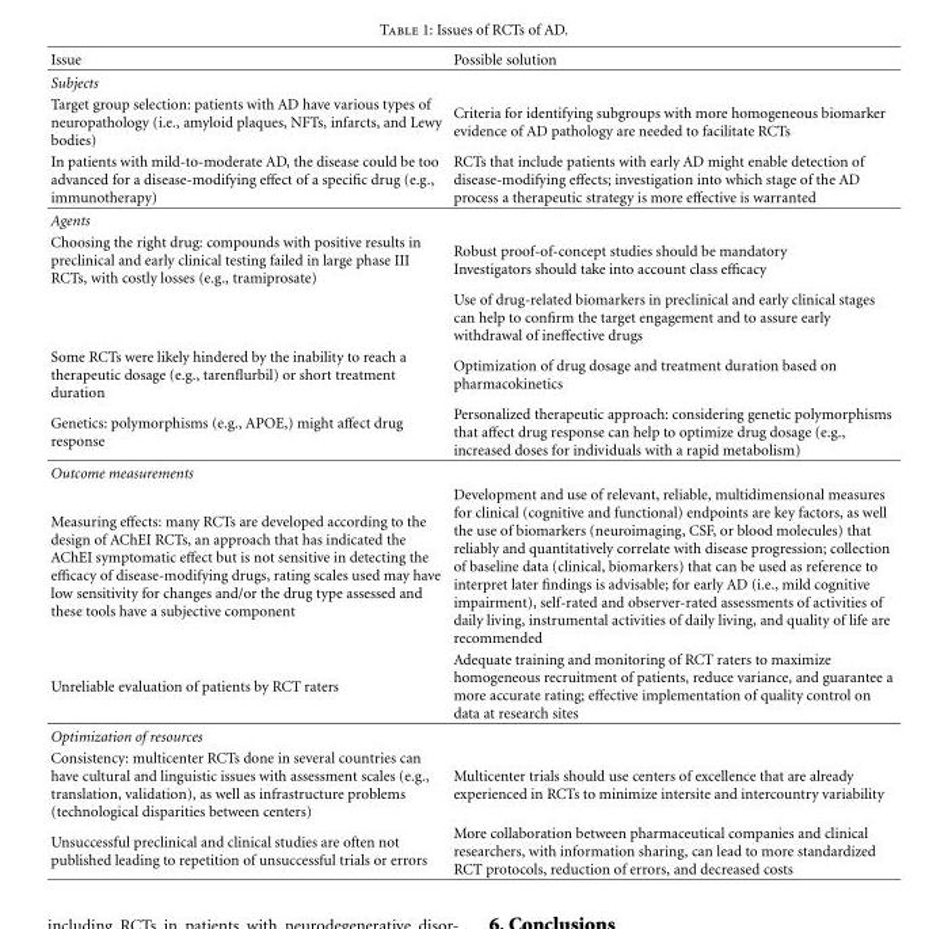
<table><thead><tr><td>Issue</td><td>Possible solution</td></tr></thead><tbody><tr><td colspan="2">Subjects</td></tr><tr><td>Target group selection: patients with AD have various types of neuropathology (i.e., amyloid plaques, NFTs, infarcts, and Lewy bodies)</td><td>Criteria for identifying subgroups with more homogeneous biomarker evidence of AD pathology are needed to facilitate RCTs</td></tr><tr><td>In patients with mild-to-moderate AD, the disease could be too advanced for a disease-modifying effect of a specific drug (e.g., immunotherapy)</td><td>RCTs that include patients with early AD might enable detection of disease-modifying effects; investigation into which stage of the AD process a therapeutic strategy is more effective is warranted</td></tr><tr><td colspan="2">Agents</td></tr><tr><td rowspan="2">Choosing the right drug: compounds with positive results in preclinical and early clinical testing failed in large phase III RCTs, with costly losses (e.g., tramiprosate)</td><td>Robust proof-of-concept studies should be mandatory Investigators should take into account class efficacy</td></tr><tr><td>Use of drug-related biomarkers in preclinical and early clinical stages can help to confirm the target engagement and to assure early withdrawal of ineffective drugs</td></tr><tr><td>Some RCTs were likely hindered by the inability to reach a therapeutic dosage (e.g., tarenflurbil) or short treatment duration</td><td>Optimization of drug dosage and treatment duration based on pharmacokinetics</td></tr><tr><td>Genetics: polymorphisms (e.g., APOE,) might affect drug response</td><td>Personalized therapeutic approach: considering genetic polymorphisms that affect drug response can help to optimize drug dosage (e.g., increased doses for individuals with a rapid metabolism)</td></tr><tr><td colspan="2">Outcome measurements</td></tr><tr><td>Measuring effects: many RCTs are developed according to the design of AChEI RCTs, an approach that has indicated the AChEI symptomatic effect but is not sensitive in detecting the efficacy of disease-modifying drugs, rating scales used may have low sensitivity for changes and/or the drug type assessed and these tools have a subjective component</td><td>Development and use of relevant, reliable, multidimensional measures for clinical (cognitive and functional) endpoints are key factors, as well the use of biomarkers (neuroimaging, CSF, or blood molecules) that reliably and quantitatively correlate with disease progression; collection of baseline data (clinical, biomarkers) that can be used as reference to interpret later findings is advisable; for early AD (i.e., mild cognitive impairment), self-rated and observer-rated assessments of activities of daily living, instrumental activities of daily living, and quality of life are recommended</td></tr><tr><td>Unreliable evaluation of patients by RCT raters</td><td>Adequate training and monitoring of RCT raters to maximize homogeneous recruitment of patients, reduce variance, and guarantee a more accurate rating; effective implementation of quality control on data at research sites</td></tr><tr><td colspan="2">Optimization of resources</td></tr><tr><td>Consistency: multicenter RCTs done in several countries can have cultural and linguistic issues with assessment scales (e.g., translation, validation), as well as infrastructure problems (technological disparities between centers)</td><td>Multicenter trials should use centers of excellence that are already experienced in RCTs to minimize intersite and intercountry variability</td></tr><tr><td>Unsuccessful preclinical and clinical studies are often not published leading to repetition of unsuccessful trials or errors</td><td>More collaboration between pharmaceutical companies and clinical researchers, with information sharing, can lead to more standardized RCT protocols, reduction of errors, and decreased costs</td></tr></tbody></table>